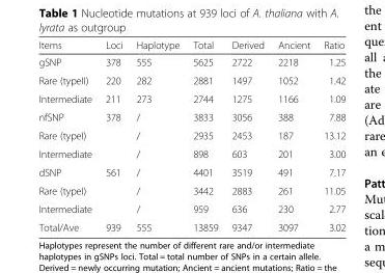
<table><thead><tr><td>Items</td><td>Loci</td><td>Haplotype</td><td>Total</td><td>Derived</td><td>Ancient</td><td>Ratio</td></tr></thead><tbody><tr><td>gSNP</td><td>378</td><td>555</td><td>5625</td><td>2722</td><td>2218</td><td>1.25</td></tr><tr><td>Rare (typeII)</td><td>220</td><td>282</td><td>2881</td><td>1497</td><td>1052</td><td>1.42</td></tr><tr><td>Intermediate</td><td>211</td><td>273</td><td>2744</td><td>1275</td><td>1166</td><td>1.09</td></tr><tr><td>nfSNP</td><td>378</td><td>/</td><td>3833</td><td>3056</td><td>388</td><td>7.88</td></tr><tr><td>Rare (typeI)</td><td></td><td>/</td><td>2935</td><td>2453</td><td>187</td><td>13.12</td></tr><tr><td>Intermediate</td><td></td><td>/</td><td>898</td><td>603</td><td>201</td><td>3.00</td></tr><tr><td>dSNP</td><td>561</td><td>/</td><td>4401</td><td>3519</td><td>491</td><td>7.17</td></tr><tr><td>Rare (typeI)</td><td></td><td>/</td><td>3442</td><td>2883</td><td>261</td><td>11.05</td></tr><tr><td>Intermediate</td><td></td><td>/</td><td>959</td><td>636</td><td>230</td><td>2.77</td></tr><tr><td>Total/Ave</td><td>939</td><td>555</td><td>13859</td><td>9347</td><td>3097</td><td>3.02</td></tr></tbody></table>